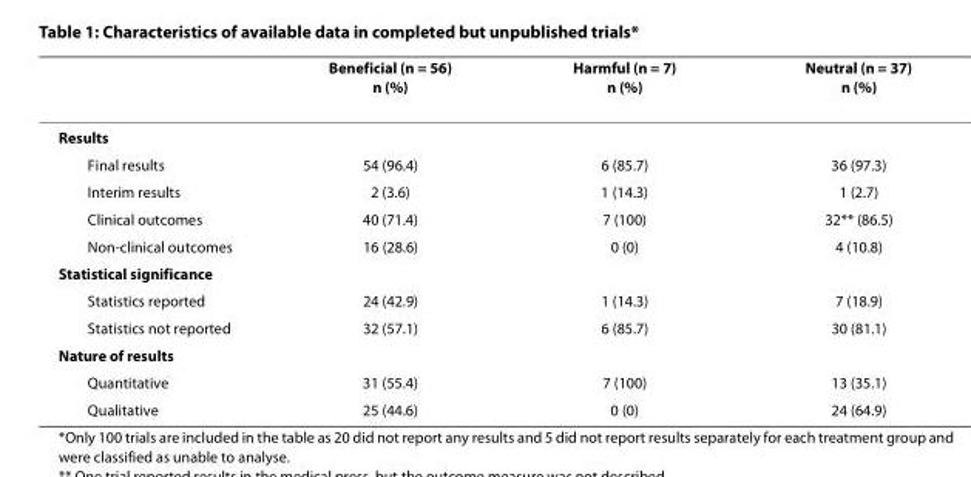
<table><thead><tr><td></td><td>Beneficial (n = 56) n (%)</td><td>Harmful (n = 7) n (%)</td><td>Neutral (n = 37) n (%)</td></tr></thead><tbody><tr><td colspan="4">Results</td></tr><tr><td>Final results</td><td>54 (96.4)</td><td>6 (85.7)</td><td>36 (97.3)</td></tr><tr><td>Interim results</td><td>2 (3.6)</td><td>1 (14.3)</td><td>1 (2.7)</td></tr><tr><td>Clinical outcomes</td><td>40 (71.4)</td><td>7 (100)</td><td>32** (86.5)</td></tr><tr><td>Non-clinical outcomes</td><td>16 (28.6)</td><td>0 (0)</td><td>4 (10.8)</td></tr><tr><td colspan="4">Statistical significance</td></tr><tr><td>Statistics reported</td><td>24 (42.9)</td><td>1 (14.3)</td><td>7 (18.9)</td></tr><tr><td>Statistics not reported</td><td>32 (57.1)</td><td>6 (85.7)</td><td>30 (81.1)</td></tr><tr><td colspan="4">Nature of results</td></tr><tr><td>Quantitative</td><td>31 (55.4)</td><td>7 (100)</td><td>13 (35.1)</td></tr><tr><td>Qualitative</td><td>25 (44.6)</td><td>0 (0)</td><td>24 (64.9)</td></tr></tbody></table>